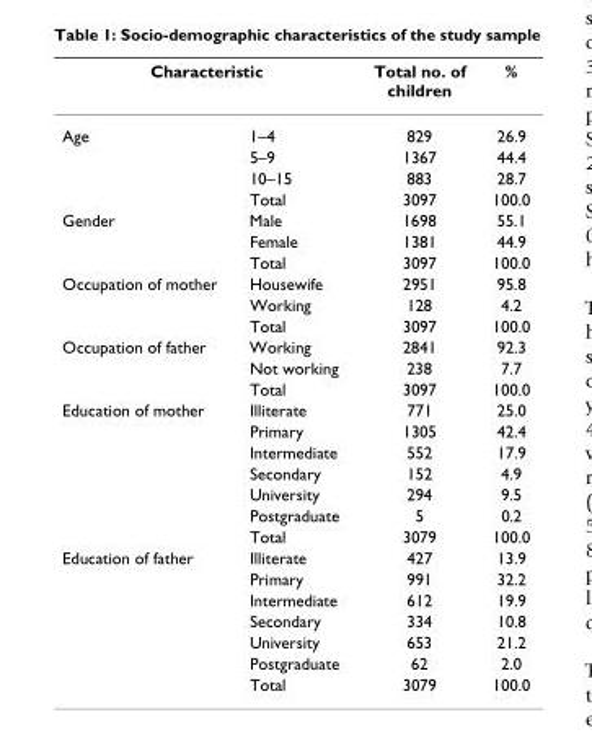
<table><thead><tr><td colspan="2">Characteristic</td><td rowspan="2">Total no. of children 829</td><td rowspan="2">% 26.9</td></tr><tr><td>Age</td><td>1–4</td></tr></thead><tbody><tr><td></td><td>5–9</td><td>1367</td><td>44.4</td></tr><tr><td></td><td>10–15</td><td>883</td><td>28.7</td></tr><tr><td></td><td>Total</td><td>3097</td><td>100.0</td></tr><tr><td rowspan="3">Gender</td><td>Male</td><td>1698</td><td>55.1</td></tr><tr><td>Female</td><td>1381</td><td>44.9</td></tr><tr><td>Total</td><td>3097</td><td>100.0</td></tr><tr><td rowspan="3">Occupation of mother</td><td>Housewife</td><td>2951</td><td>95.8</td></tr><tr><td>Working</td><td>128</td><td>4.2</td></tr><tr><td>Total</td><td>3097</td><td>100.0</td></tr><tr><td rowspan="3">Occupation of father</td><td>Working</td><td>2841</td><td>92.3</td></tr><tr><td>Not working</td><td>238</td><td>7.7</td></tr><tr><td>Total</td><td>3097</td><td>100.0</td></tr><tr><td rowspan="7">Education of mother</td><td>Illiterate</td><td>771</td><td>25.0</td></tr><tr><td>Primary</td><td>1305</td><td>42.4</td></tr><tr><td>Intermediate</td><td>552</td><td>17.9</td></tr><tr><td>Secondary</td><td>152</td><td>4.9</td></tr><tr><td>University</td><td>294</td><td>9.5</td></tr><tr><td>Postgraduate</td><td>5</td><td>0.2</td></tr><tr><td>Total</td><td>3079</td><td>100.0</td></tr><tr><td rowspan="7">Education of father</td><td>Illiterate</td><td>427</td><td>13.9</td></tr><tr><td>Primary</td><td>991</td><td>32.2</td></tr><tr><td>Intermediate</td><td>612</td><td>19.9</td></tr><tr><td>Secondary</td><td>334</td><td>10.8</td></tr><tr><td>University</td><td>653</td><td>21.2</td></tr><tr><td>Postgraduate</td><td>62</td><td>2.0</td></tr><tr><td>Total</td><td>3079</td><td>100.0</td></tr></tbody></table>